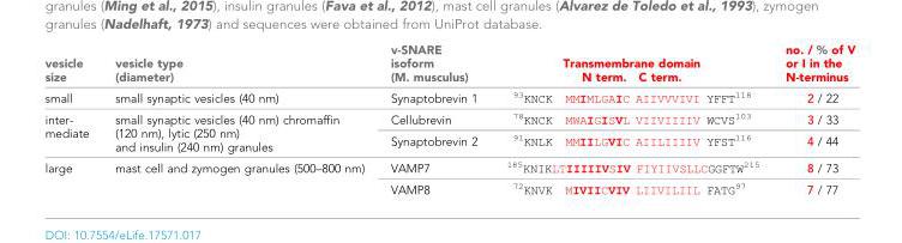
<table><thead><tr><td>vesicle size</td><td>vesicle type (diameter)</td><td>v-SNARE isoform (M. musculus)</td><td>Transmembrane domain N term. C term.</td><td>no. / % of V or I in the N-terminus</td></tr></thead><tbody><tr><td>small</td><td>small synaptic vesicles (40 nm)</td><td>Synaptobrevin 1</td><td><sup>93</sup>KNCK MMIMLGAIC AIIVVVIVI YFFT<sup>118</sup></td><td>2 / 22</td></tr><tr><td rowspan="2">inter- mediate</td><td rowspan="2">small synaptic vesicles (40 nm) chromaffin (120 nm), lytic (250 nm) and insulin (240 nm) granules</td><td>Cellubrevin</td><td><sup>78</sup>KNCK MWAIGISVL VIIVIIIIV WCVS<sup>103</sup></td><td>3 / 33</td></tr><tr><td>Synaptobrevin 2</td><td><sup>91</sup>KNLK MMIILGVIC AIILIIIIV YFST<sup>116</sup></td><td>4 / 44</td></tr><tr><td rowspan="2">large</td><td rowspan="2">mast cell and zymogen granules (500–800 nm)</td><td>VAMP7</td><td><sup>185</sup>KNIKLTIIIIIVSIV FIYIIVSLLCGGFTW<sup>215</sup></td><td>8 / 73</td></tr><tr><td>VAMP8</td><td><sup>72</sup>KNVK MIVIICVIV LIIVILIIL FATG<sup>97</sup></td><td>7 / 77</td></tr></tbody></table>